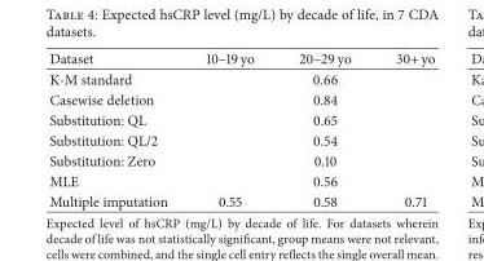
<table><thead><tr><td>Dataset</td><td>10–19 yo</td><td>20–29 yo</td><td>30+ yo</td></tr></thead><tbody><tr><td>K-M standard</td><td></td><td>0.66</td><td></td></tr><tr><td>Casewise deletion</td><td></td><td>0.84</td><td></td></tr><tr><td>Substitution: QL</td><td></td><td>0.65</td><td></td></tr><tr><td>Substitution: QL/2</td><td></td><td>0.54</td><td></td></tr><tr><td>Substitution: Zero</td><td></td><td>0.10</td><td></td></tr><tr><td>MLE</td><td></td><td>0.56</td><td></td></tr><tr><td>Multiple imputation</td><td>0.55</td><td>0.58</td><td>0.71</td></tr></tbody></table>